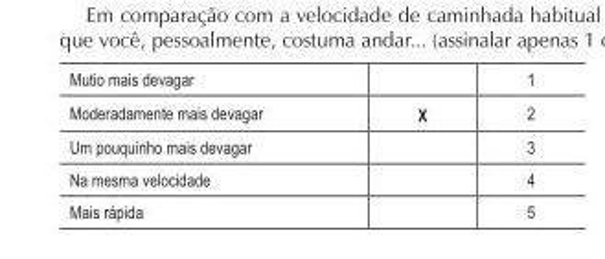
<table><thead><tr><td>Mutio mais devagar</td><td></td><td>1</td></tr></thead><tbody><tr><td>Moderadamente mais devagar</td><td>X</td><td>2</td></tr><tr><td>Um pouquinho mais devagar</td><td></td><td>3</td></tr><tr><td>Na mesma velocidade</td><td></td><td>4</td></tr></tbody></table>